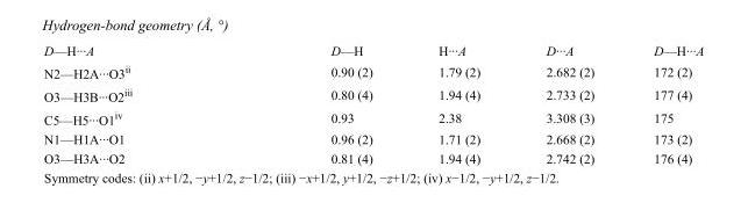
<table><tbody><tr><td>D—H···A</td><td>D—H</td><td>H···A</td><td>D···A</td><td>D—H···A</td></tr><tr><td>N2—H2A···O3<sup>ii</sup></td><td>0.90 (2)</td><td>1.79 (2)</td><td>2.682 (2)</td><td>172 (2)</td></tr><tr><td>O3—H3B···O2<sup>iii</sup></td><td>0.80 (4)</td><td>1.94 (4)</td><td>2.733 (2)</td><td>177 (4)</td></tr><tr><td>C5—H5···O1<sup>iv</sup></td><td>0.93</td><td>2.38</td><td>3.308 (3)</td><td>175</td></tr><tr><td>N1—H1A···O1</td><td>0.96 (2)</td><td>1.71 (2)</td><td>2.668 (2)</td><td>173 (2)</td></tr><tr><td>O3—H3A···O2</td><td>0.81 (4)</td><td>1.94 (4)</td><td>2.742 (2)</td><td>176 (4)</td></tr></tbody></table>